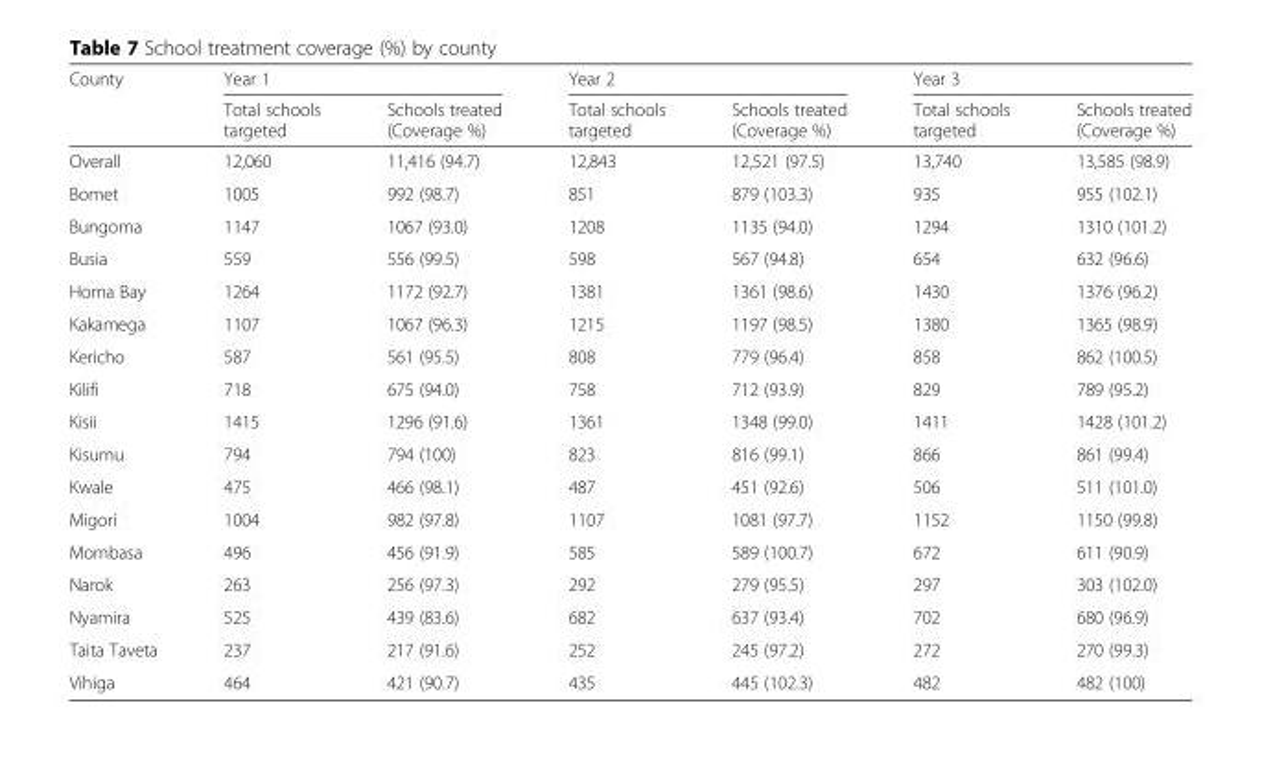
<table><thead><tr><td rowspan="2">County</td><td colspan="2">Year 1</td><td colspan="2">Year 2</td><td colspan="2">Year 3</td></tr><tr><td>Total schools targeted</td><td>Schools treated (Coverage %)</td><td>Total schools targeted</td><td>Schools treated (Coverage %)</td><td>Total schools targeted</td><td>Schools treated (Coverage %)</td></tr></thead><tbody><tr><td>Overall</td><td>12,060</td><td>11,416 (94.7)</td><td>12,843</td><td>12,521 (97.5)</td><td>13,740</td><td>13,585 (98.9)</td></tr><tr><td>Bomet</td><td>1005</td><td>992 (98.7)</td><td>851</td><td>879 (103.3)</td><td>935</td><td>955 (102.1)</td></tr><tr><td>Bungoma</td><td>1147</td><td>1067 (93.0)</td><td>1208</td><td>1135 (94.0)</td><td>1294</td><td>1310 (101.2)</td></tr><tr><td>Busia</td><td>559</td><td>556 (99.5)</td><td>598</td><td>567 (94.8)</td><td>654</td><td>632 (96.6)</td></tr><tr><td>Homa Bay</td><td>1264</td><td>1172 (92.7)</td><td>1381</td><td>1361 (98.6)</td><td>1430</td><td>1376 (96.2)</td></tr><tr><td>Kakamega</td><td>1107</td><td>1067 (96.3)</td><td>1215</td><td>1197 (98.5)</td><td>1380</td><td>1365 (98.9)</td></tr><tr><td>Kericho</td><td>587</td><td>561 (95.5)</td><td>808</td><td>779 (96.4)</td><td>858</td><td>862 (100.5)</td></tr><tr><td>Kilifi</td><td>718</td><td>675 (94.0)</td><td>758</td><td>712 (93.9)</td><td>829</td><td>789 (95.2)</td></tr><tr><td>Kisii</td><td>1415</td><td>1296 (91.6)</td><td>1361</td><td>1348 (99.0)</td><td>1411</td><td>1428 (101.2)</td></tr><tr><td>Kisumu</td><td>794</td><td>794 (100)</td><td>823</td><td>816 (99.1)</td><td>866</td><td>861 (99.4)</td></tr><tr><td>Kwale</td><td>475</td><td>466 (98.1)</td><td>487</td><td>451 (92.6)</td><td>506</td><td>511 (101.0)</td></tr><tr><td>Migori</td><td>1004</td><td>982 (97.8)</td><td>1107</td><td>1081 (97.7)</td><td>1152</td><td>1150 (99.8)</td></tr><tr><td>Mombasa</td><td>496</td><td>456 (91.9)</td><td>585</td><td>589 (100.7)</td><td>672</td><td>611 (90.9)</td></tr><tr><td>Narok</td><td>263</td><td>256 (97.3)</td><td>292</td><td>279 (95.5)</td><td>297</td><td>303 (102.0)</td></tr><tr><td>Nyamira</td><td>525</td><td>439 (83.6)</td><td>682</td><td>637 (93.4)</td><td>702</td><td>680 (96.9)</td></tr><tr><td>Taita Taveta</td><td>237</td><td>217 (91.6)</td><td>252</td><td>245 (97.2)</td><td>272</td><td>270 (99.3)</td></tr><tr><td>Vihiga</td><td>464</td><td>421 (90.7)</td><td>435</td><td>445 (102.3)</td><td>482</td><td>482 (100)</td></tr></tbody></table>